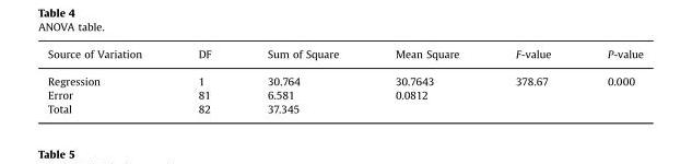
<table><thead><tr><td>Source of Variation</td><td>DF</td><td>Sum of Square</td><td>Mean Square</td><td>F-value</td><td>P-value</td></tr></thead><tbody><tr><td>Regression</td><td>1</td><td>30.764</td><td>30.7643</td><td>378.67</td><td>0.000</td></tr><tr><td>Error</td><td>81</td><td>6.581</td><td>0.0812</td><td></td><td></td></tr><tr><td>Total</td><td>82</td><td>37.345</td><td></td><td></td><td></td></tr></tbody></table>